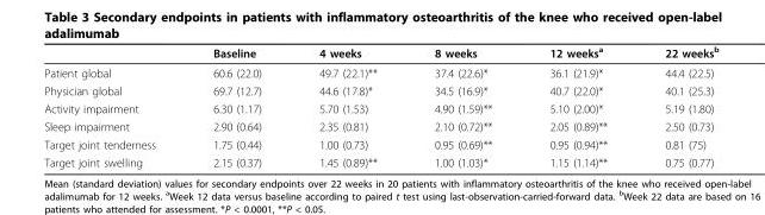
<table><thead><tr><td></td><td>Baseline</td><td>4 weeks</td><td>8 weeks</td><td>12 weeks<sup>a</sup></td><td>22 weeks<sup>b</sup></td></tr></thead><tbody><tr><td>Patient global</td><td>60.6 (22.0)</td><td>49.7 (22.1)**</td><td>37.4 (22.6)*</td><td>36.1 (21.9)*</td><td>44.4 (22.5)</td></tr><tr><td>Physician global</td><td>69.7 (12.7)</td><td>44.6 (17.8)*</td><td>34.5 (16.9)*</td><td>40.7 (22.0)*</td><td>40.1 (25.3)</td></tr><tr><td>Activity impairment</td><td>6.30 (1.17)</td><td>5.70 (1.53)</td><td>4.90 (1.59)**</td><td>5.10 (2.00)*</td><td>5.19 (1.80)</td></tr><tr><td>Sleep impairment</td><td>2.90 (0.64)</td><td>2.35 (0.81)</td><td>2.10 (0.72)**</td><td>2.05 (0.89)**</td><td>2.50 (0.73)</td></tr><tr><td>Target joint tenderness</td><td>1.75 (0.44)</td><td>1.00 (0.73)</td><td>0.95 (0.69)**</td><td>0.95 (0.94)**</td><td>0.81 (75)</td></tr><tr><td>Target joint swelling</td><td>2.15 (0.37)</td><td>1.45 (0.89)**</td><td>1.00 (1.03)*</td><td>1.15 (1.14)**</td><td>0.75 (0.77)</td></tr></tbody></table>